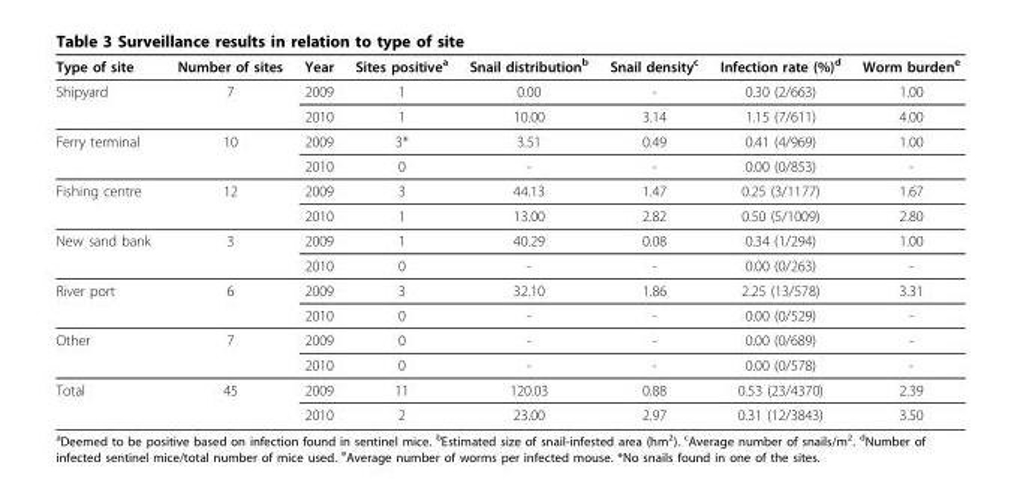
<table><thead><tr><td>Type of site</td><td>Number of sites</td><td>Year</td><td>Sites positive<sup>a</sup></td><td>Snail distribution<sup>b</sup></td><td>Snail density<sup>c</sup></td><td>Infection rate (%)<sup>d</sup></td><td>Worm burden<sup>e</sup></td></tr></thead><tbody><tr><td rowspan="2">Shipyard</td><td>7</td><td>2009</td><td>1</td><td>0.00</td><td>-</td><td>0.30 (2/663)</td><td>1.00</td></tr><tr><td></td><td>2010</td><td>1</td><td>10.00</td><td>3.14</td><td>1.15 (7/611)</td><td>4.00</td></tr><tr><td rowspan="2">Ferry terminal</td><td>10</td><td>2009</td><td>3*</td><td>3.51</td><td>0.49</td><td>0.41 (4/969)</td><td>1.00</td></tr><tr><td></td><td>2010</td><td>0</td><td>-</td><td>-</td><td>0.00 (0/853)</td><td>-</td></tr><tr><td rowspan="2">Fishing centre</td><td>12</td><td>2009</td><td>3</td><td>44.13</td><td>1.47</td><td>0.25 (3/1177)</td><td>1.67</td></tr><tr><td></td><td>2010</td><td>1</td><td>13.00</td><td>2.82</td><td>0.50 (5/1009)</td><td>2.80</td></tr><tr><td rowspan="2">New sand bank</td><td>3</td><td>2009</td><td>1</td><td>40.29</td><td>0.08</td><td>0.34 (1/294)</td><td>1.00</td></tr><tr><td></td><td>2010</td><td>0</td><td>-</td><td>-</td><td>0.00 (0/263)</td><td>-</td></tr><tr><td rowspan="2">River port</td><td>6</td><td>2009</td><td>3</td><td>32.10</td><td>1.86</td><td>2.25 (13/578)</td><td>3.31</td></tr><tr><td></td><td>2010</td><td>0</td><td>-</td><td>-</td><td>0.00 (0/529)</td><td>-</td></tr><tr><td rowspan="2">Other</td><td>7</td><td>2009</td><td>0</td><td>-</td><td>-</td><td>0.00 (0/689)</td><td>-</td></tr><tr><td></td><td>2010</td><td>0</td><td>-</td><td>-</td><td>0.00 (0/578)</td><td>-</td></tr><tr><td rowspan="2">Total</td><td>45</td><td>2009</td><td>11</td><td>120.03</td><td>0.88</td><td>0.53 (23/4370)</td><td>2.39</td></tr><tr><td></td><td>2010</td><td>2</td><td>23.00</td><td>2.97</td><td>0.31 (12/3843)</td><td>3.50</td></tr></tbody></table>